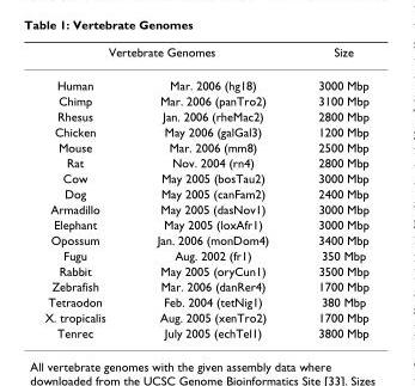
<table><thead><tr><td colspan="2">Vertebrate Genomes</td><td rowspan="2">Size 3000 Mbp</td></tr><tr><td>Human</td><td>Mar. 2006 (hg18)</td></tr></thead><tbody><tr><td>Chimp</td><td>Mar. 2006 (panTro2)</td><td>3100 Mbp</td></tr><tr><td>Rhesus</td><td>Jan. 2006 (rheMac2)</td><td>2800 Mbp</td></tr><tr><td>Chicken</td><td>May 2006 (galGal3)</td><td>1200 Mbp</td></tr><tr><td>Mouse</td><td>Mar. 2006 (mm8)</td><td>2500 Mbp</td></tr><tr><td>Rat</td><td>Nov. 2004 (rn4)</td><td>2800 Mbp</td></tr><tr><td>Cow</td><td>May 2005 (bosTau2)</td><td>3000 Mbp</td></tr><tr><td>Dog</td><td>May 2005 (canFam2)</td><td>2400 Mbp</td></tr><tr><td>Armadillo</td><td>May 2005 (dasNov1)</td><td>3000 Mbp</td></tr><tr><td>Elephant</td><td>May 2005 (loxAfr1)</td><td>3000 Mbp</td></tr><tr><td>Opossum</td><td>Jan. 2006 (monDom4)</td><td>3400 Mbp</td></tr><tr><td>Fugu</td><td>Aug. 2002 (fr1)</td><td>350 Mbp</td></tr><tr><td>Rabbit</td><td>May 2005 (oryCun1)</td><td>3500 Mbp</td></tr><tr><td>Zebrafish</td><td>Mar. 2006 (danRer4)</td><td>1700 Mbp</td></tr><tr><td>Tetraodon</td><td>Feb. 2004 (tetNig1)</td><td>380 Mbp</td></tr><tr><td>X. tropicalis</td><td>Aug. 2005 (xenTro2)</td><td>1700 Mbp</td></tr><tr><td>Tenrec</td><td>July 2005 (echTel1)</td><td>3800 Mbp</td></tr></tbody></table>